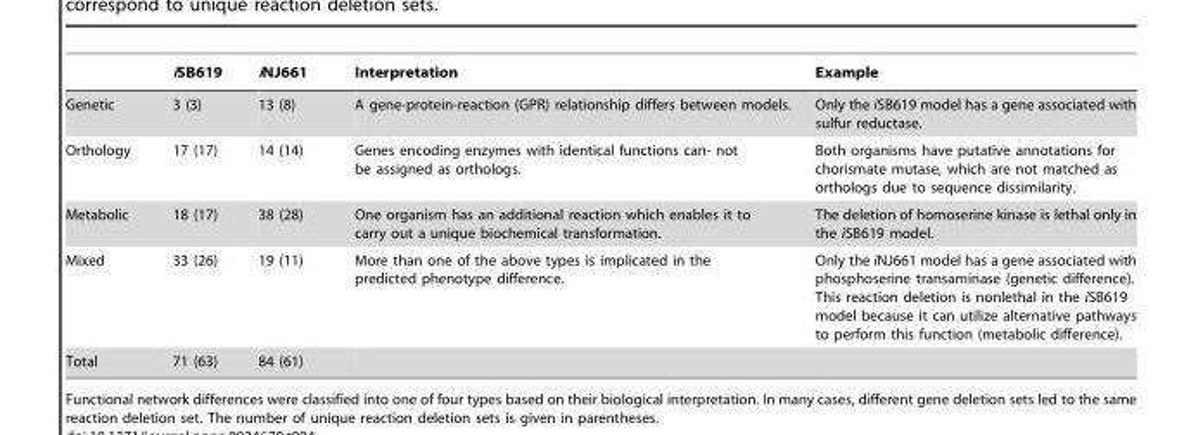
<table><thead><tr><td></td><td>iSB619</td><td>iNJ661</td><td>Interpretation</td><td>Example</td></tr></thead><tbody><tr><td>Genetic</td><td>3 (3)</td><td>13 (8)</td><td>A gene-protein-reaction (GPR) relationship differs between models.</td><td>Only the iSB619 model has a gene associated with sulfur reductase.</td></tr><tr><td>Orthology</td><td>17 (17)</td><td>14 (14)</td><td>Genes encoding enzymes with identical functions can- not be assigned as orthologs.</td><td>Both organisms have putative annotations for chorismate mutase, which are not matched as orthologs due to sequence dissimilarity.</td></tr><tr><td>Metabolic</td><td>18 (17)</td><td>38 (28)</td><td>One organism has an additional reaction which enables it to carry out a unique biochemical transformation.</td><td>The deletion of homoserine kinase is lethal only in the iSB619 model.</td></tr><tr><td>Mixed</td><td>33 (26)</td><td>19 (11)</td><td>More than one of the above types is implicated in the predicted phenotype difference.</td><td>Only the iNJ661 model has a gene associated with phosphoserine transaminase (genetic difference). This reaction deletion is nonlethal in the iSB619 model because it can utilize alternative pathways to perform this function (metabolic difference).</td></tr><tr><td>Total</td><td>71 (63)</td><td>84 (61)</td><td></td><td></td></tr></tbody></table>